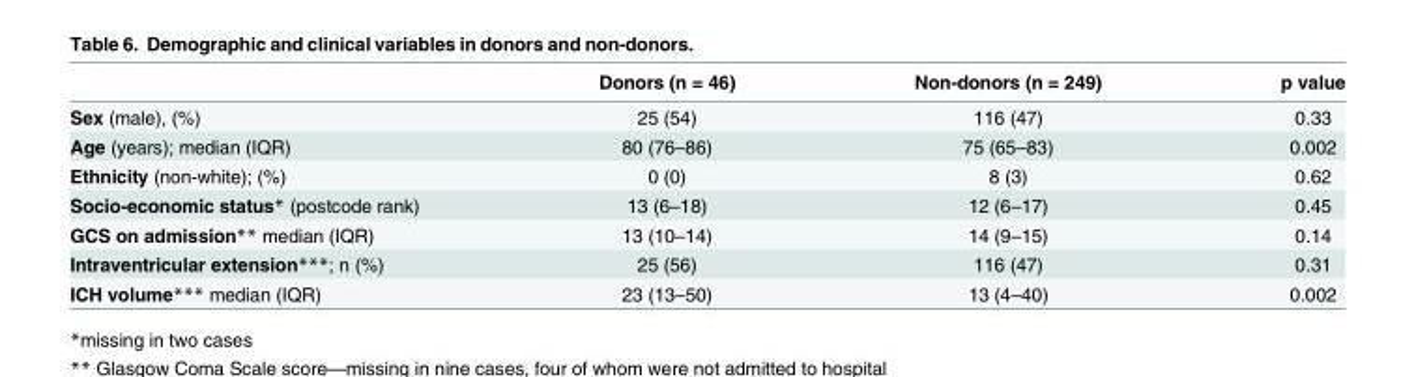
<table><thead><tr><td></td><td>Donors (n = 46)</td><td>Non-donors (n = 249)</td><td>p value</td></tr></thead><tbody><tr><td>Sex (male), (%)</td><td>25 (54)</td><td>116 (47)</td><td>0.33</td></tr><tr><td>Age (years); median (IQR)</td><td>80 (76–86)</td><td>75 (65–83)</td><td>0.002</td></tr><tr><td>Ethnicity (non-white); (%)</td><td>0 (0)</td><td>8 (3)</td><td>0.62</td></tr><tr><td>Socio-economic status* (postcode rank)</td><td>13 (6–18)</td><td>12 (6–17)</td><td>0.45</td></tr><tr><td>GCS on admission** median (IQR)</td><td>13 (10–14)</td><td>14 (9–15)</td><td>0.14</td></tr><tr><td>Intraventricular extension***; n (%)</td><td>25 (56)</td><td>116 (47)</td><td>0.31</td></tr><tr><td>ICH volume*** median (IQR)</td><td>23 (13–50)</td><td>13 (4–40)</td><td>0.002</td></tr></tbody></table>